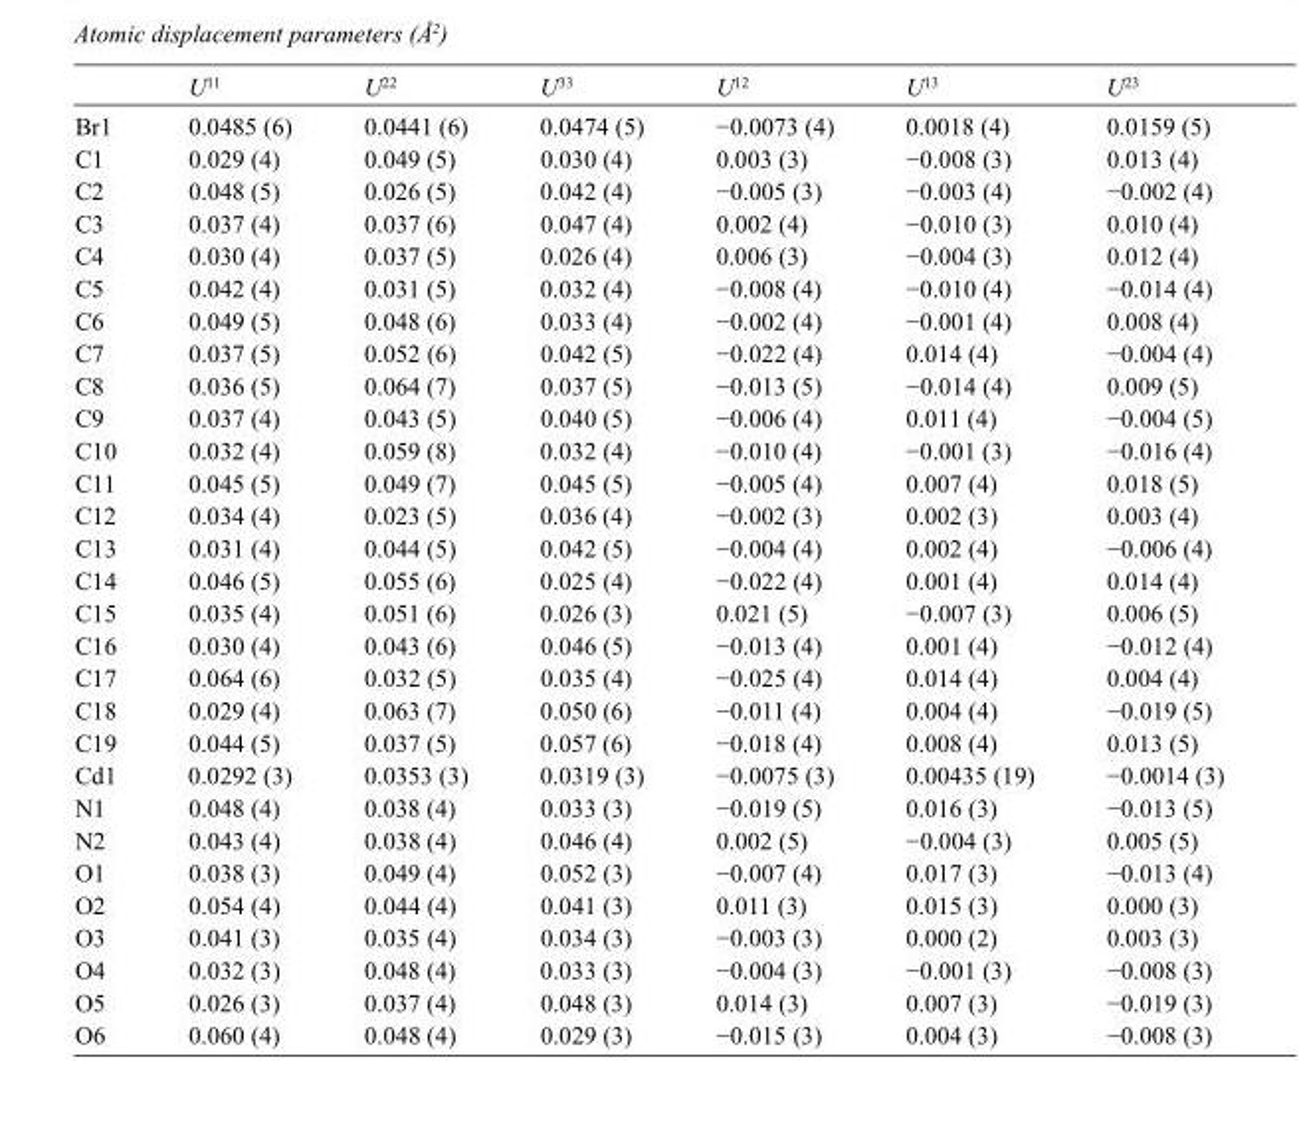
<table><thead><tr><td></td><td>U<sup>11</sup></td><td>U<sup>22</sup></td><td>U<sup>33</sup></td><td>U<sup>12</sup></td><td>U<sup>13</sup></td><td>U<sup>23</sup></td></tr></thead><tbody><tr><td>Br1</td><td>0.0485 (6)</td><td>0.0441 (6)</td><td>0.0474 (5)</td><td>−0.0073 (4)</td><td>0.0018 (4)</td><td>0.0159 (5)</td></tr><tr><td>C1</td><td>0.029 (4)</td><td>0.049 (5)</td><td>0.030 (4)</td><td>0.003 (3)</td><td>−0.008 (3)</td><td>0.013 (4)</td></tr><tr><td>C2</td><td>0.048 (5)</td><td>0.026 (5)</td><td>0.042 (4)</td><td>−0.005 (3)</td><td>−0.003 (4)</td><td>−0.002 (4)</td></tr><tr><td>C3</td><td>0.037 (4)</td><td>0.037 (6)</td><td>0.047 (4)</td><td>0.002 (4)</td><td>−0.010 (3)</td><td>0.010 (4)</td></tr><tr><td>C4</td><td>0.030 (4)</td><td>0.037 (5)</td><td>0.026 (4)</td><td>0.006 (3)</td><td>−0.004 (3)</td><td>0.012 (4)</td></tr><tr><td>C5</td><td>0.042 (4)</td><td>0.031 (5)</td><td>0.032 (4)</td><td>−0.008 (4)</td><td>−0.010 (4)</td><td>−0.014 (4)</td></tr><tr><td>C6</td><td>0.049 (5)</td><td>0.048 (6)</td><td>0.033 (4)</td><td>−0.002 (4)</td><td>−0.001 (4)</td><td>0.008 (4)</td></tr><tr><td>C7</td><td>0.037 (5)</td><td>0.052 (6)</td><td>0.042 (5)</td><td>−0.022 (4)</td><td>0.014 (4)</td><td>−0.004 (4)</td></tr><tr><td>C8</td><td>0.036 (5)</td><td>0.064 (7)</td><td>0.037 (5)</td><td>−0.013 (5)</td><td>−0.014 (4)</td><td>0.009 (5)</td></tr><tr><td>C9</td><td>0.037 (4)</td><td>0.043 (5)</td><td>0.040 (5)</td><td>−0.006 (4)</td><td>0.011 (4)</td><td>−0.004 (5)</td></tr><tr><td>C10</td><td>0.032 (4)</td><td>0.059 (8)</td><td>0.032 (4)</td><td>−0.010 (4)</td><td>−0.001 (3)</td><td>−0.016 (4)</td></tr><tr><td>C11</td><td>0.045 (5)</td><td>0.049 (7)</td><td>0.045 (5)</td><td>−0.005 (4)</td><td>0.007 (4)</td><td>0.018 (5)</td></tr><tr><td>C12</td><td>0.034 (4)</td><td>0.023 (5)</td><td>0.036 (4)</td><td>−0.002 (3)</td><td>0.002 (3)</td><td>0.003 (4)</td></tr><tr><td>C13</td><td>0.031 (4)</td><td>0.044 (5)</td><td>0.042 (5)</td><td>−0.004 (4)</td><td>0.002 (4)</td><td>−0.006 (4)</td></tr><tr><td>C14</td><td>0.046 (5)</td><td>0.055 (6)</td><td>0.025 (4)</td><td>−0.022 (4)</td><td>0.001 (4)</td><td>0.014 (4)</td></tr><tr><td>C15</td><td>0.035 (4)</td><td>0.051 (6)</td><td>0.026 (3)</td><td>0.021 (5)</td><td>−0.007 (3)</td><td>0.006 (5)</td></tr><tr><td>C16</td><td>0.030 (4)</td><td>0.043 (6)</td><td>0.046 (5)</td><td>−0.013 (4)</td><td>0.001 (4)</td><td>−0.012 (4)</td></tr><tr><td>C17</td><td>0.064 (6)</td><td>0.032 (5)</td><td>0.035 (4)</td><td>−0.025 (4)</td><td>0.014 (4)</td><td>0.004 (4)</td></tr><tr><td>C18</td><td>0.029 (4)</td><td>0.063 (7)</td><td>0.050 (6)</td><td>−0.011 (4)</td><td>0.004 (4)</td><td>−0.019 (5)</td></tr><tr><td>C19</td><td>0.044 (5)</td><td>0.037 (5)</td><td>0.057 (6)</td><td>−0.018 (4)</td><td>0.008 (4)</td><td>0.013 (5)</td></tr><tr><td>Cd1</td><td>0.0292 (3)</td><td>0.0353 (3)</td><td>0.0319 (3)</td><td>−0.0075 (3)</td><td>0.00435 (19)</td><td>−0.0014 (3)</td></tr><tr><td>N1</td><td>0.048 (4)</td><td>0.038 (4)</td><td>0.033 (3)</td><td>−0.019 (5)</td><td>0.016 (3)</td><td>−0.013 (5)</td></tr><tr><td>N2</td><td>0.043 (4)</td><td>0.038 (4)</td><td>0.046 (4)</td><td>0.002 (5)</td><td>−0.004 (3)</td><td>0.005 (5)</td></tr><tr><td>O1</td><td>0.038 (3)</td><td>0.049 (4)</td><td>0.052 (3)</td><td>−0.007 (4)</td><td>0.017 (3)</td><td>−0.013 (4)</td></tr><tr><td>O2</td><td>0.054 (4)</td><td>0.044 (4)</td><td>0.041 (3)</td><td>0.011 (3)</td><td>0.015 (3)</td><td>0.000 (3)</td></tr><tr><td>O3</td><td>0.041 (3)</td><td>0.035 (4)</td><td>0.034 (3)</td><td>−0.003 (3)</td><td>0.000 (2)</td><td>0.003 (3)</td></tr><tr><td>O4</td><td>0.032 (3)</td><td>0.048 (4)</td><td>0.033 (3)</td><td>−0.004 (3)</td><td>−0.001 (3)</td><td>−0.008 (3)</td></tr><tr><td>O5</td><td>0.026 (3)</td><td>0.037 (4)</td><td>0.048 (3)</td><td>0.014 (3)</td><td>0.007 (3)</td><td>−0.019 (3)</td></tr><tr><td>O6</td><td>0.060 (4)</td><td>0.048 (4)</td><td>0.029 (3)</td><td>−0.015 (3)</td><td>0.004 (3)</td><td>−0.008 (3)</td></tr></tbody></table>